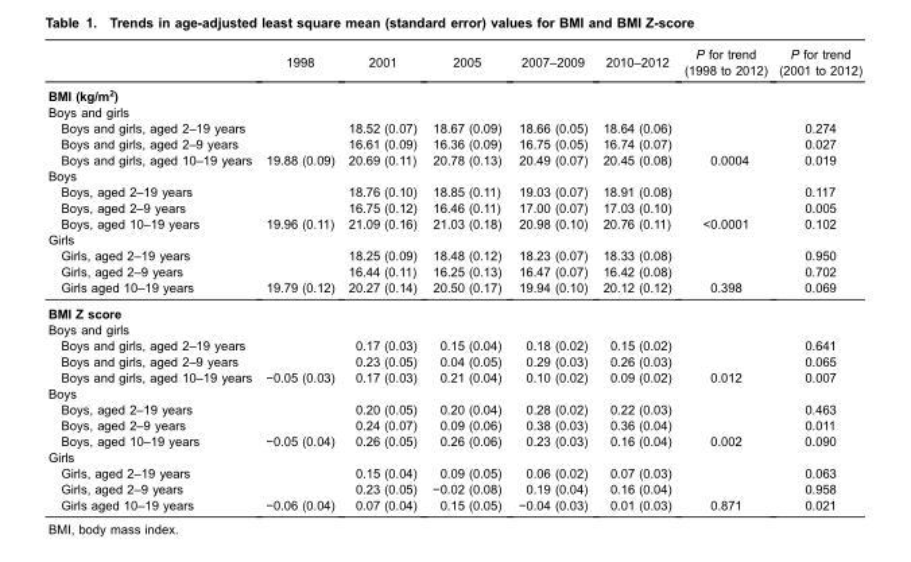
<table><thead><tr><td></td><td>1998</td><td>2001</td><td>2005</td><td>2007–2009</td><td>2010–2012</td><td>P for trend (1998 to 2012)</td><td>P for trend (2001 to 2012)</td></tr></thead><tbody><tr><td colspan="8">BMI (kg/m<sup>2</sup>)</td></tr><tr><td colspan="8">Boys and girls</td></tr><tr><td>Boys and girls, aged 2–19 years</td><td></td><td>18.52 (0.07)</td><td>18.67 (0.09)</td><td>18.66 (0.05)</td><td>18.64 (0.06)</td><td></td><td>0.274</td></tr><tr><td>Boys and girls, aged 2–9 years</td><td></td><td>16.61 (0.09)</td><td>16.36 (0.09)</td><td>16.75 (0.05)</td><td>16.74 (0.07)</td><td></td><td>0.027</td></tr><tr><td>Boys and girls, aged 10–19 years</td><td>19.88 (0.09)</td><td>20.69 (0.11)</td><td>20.78 (0.13)</td><td>20.49 (0.07)</td><td>20.45 (0.08)</td><td>0.0004</td><td>0.019</td></tr><tr><td colspan="8">Boys</td></tr><tr><td>Boys, aged 2–19 years</td><td></td><td>18.76 (0.10)</td><td>18.85 (0.11)</td><td>19.03 (0.07)</td><td>18.91 (0.08)</td><td></td><td>0.117</td></tr><tr><td>Boys, aged 2–9 years</td><td></td><td>16.75 (0.12)</td><td>16.46 (0.11)</td><td>17.00 (0.07)</td><td>17.03 (0.10)</td><td></td><td>0.005</td></tr><tr><td>Boys, aged 10–19 years</td><td>19.96 (0.11)</td><td>21.09 (0.16)</td><td>21.03 (0.18)</td><td>20.98 (0.10)</td><td>20.76 (0.11)</td><td>&lt;0.0001</td><td>0.102</td></tr><tr><td colspan="8">Girls</td></tr><tr><td>Girls, aged 2–19 years</td><td></td><td>18.25 (0.09)</td><td>18.48 (0.12)</td><td>18.23 (0.07)</td><td>18.33 (0.08)</td><td></td><td>0.950</td></tr><tr><td>Girls, aged 2–9 years</td><td></td><td>16.44 (0.11)</td><td>16.25 (0.13)</td><td>16.47 (0.07)</td><td>16.42 (0.08)</td><td></td><td>0.702</td></tr><tr><td>Girls aged 10–19 years</td><td>19.79 (0.12)</td><td>20.27 (0.14)</td><td>20.50 (0.17)</td><td>19.94 (0.10)</td><td>20.12 (0.12)</td><td>0.398</td><td>0.069</td></tr><tr><td colspan="8">BMI Z score</td></tr><tr><td colspan="8">Boys and girls</td></tr><tr><td>Boys and girls, aged 2–19 years</td><td></td><td>0.17 (0.03)</td><td>0.15 (0.04)</td><td>0.18 (0.02)</td><td>0.15 (0.02)</td><td></td><td>0.641</td></tr><tr><td>Boys and girls, aged 2–9 years</td><td></td><td>0.23 (0.05)</td><td>0.04 (0.05)</td><td>0.29 (0.03)</td><td>0.26 (0.03)</td><td></td><td>0.065</td></tr><tr><td>Boys and girls, aged 10–19 years</td><td>−0.05 (0.03)</td><td>0.17 (0.03)</td><td>0.21 (0.04)</td><td>0.10 (0.02)</td><td>0.09 (0.02)</td><td>0.012</td><td>0.007</td></tr><tr><td colspan="8">Boys</td></tr><tr><td>Boys, aged 2–19 years</td><td></td><td>0.20 (0.05)</td><td>0.20 (0.04)</td><td>0.28 (0.02)</td><td>0.22 (0.03)</td><td></td><td>0.463</td></tr><tr><td>Boys, aged 2–9 years</td><td></td><td>0.24 (0.07)</td><td>0.09 (0.06)</td><td>0.38 (0.03)</td><td>0.36 (0.04)</td><td></td><td>0.011</td></tr><tr><td>Boys, aged 10–19 years</td><td>−0.05 (0.04)</td><td>0.26 (0.05)</td><td>0.26 (0.06)</td><td>0.23 (0.03)</td><td>0.16 (0.04)</td><td>0.002</td><td>0.090</td></tr><tr><td colspan="8">Girls</td></tr><tr><td>Girls, aged 2–19 years</td><td></td><td>0.15 (0.04)</td><td>0.09 (0.05)</td><td>0.06 (0.02)</td><td>0.07 (0.03)</td><td></td><td>0.063</td></tr><tr><td>Girls, aged 2–9 years</td><td></td><td>0.23 (0.05)</td><td>−0.02 (0.08)</td><td>0.19 (0.04)</td><td>0.16 (0.04)</td><td></td><td>0.958</td></tr><tr><td>Girls aged 10–19 years</td><td>−0.06 (0.04)</td><td>0.07 (0.04)</td><td>0.15 (0.05)</td><td>−0.04 (0.03)</td><td>0.01 (0.03)</td><td>0.871</td><td>0.021</td></tr></tbody></table>